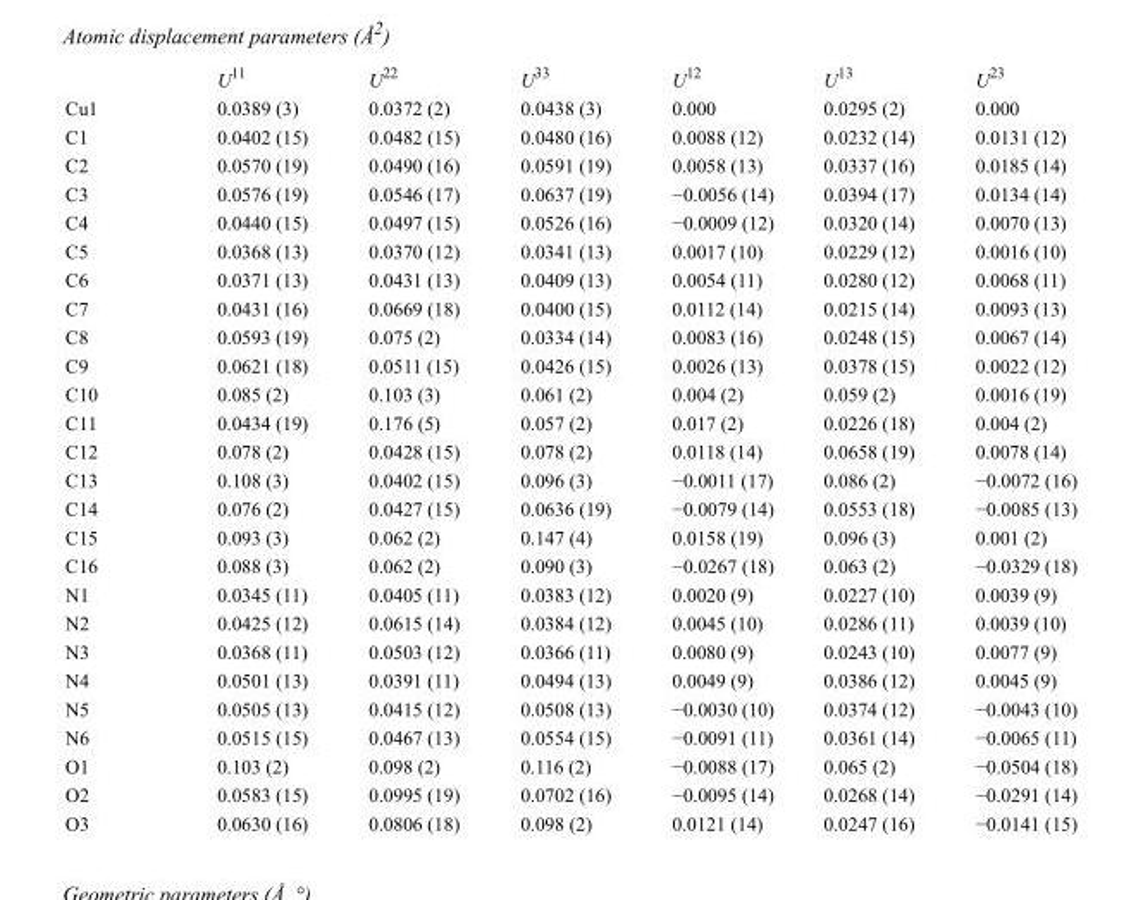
<table><thead><tr><td></td><td>U<sup>11</sup></td><td>U<sup>22</sup></td><td>U<sup>33</sup></td><td>U<sup>12</sup></td><td>U<sup>13</sup></td><td>U<sup>23</sup></td></tr></thead><tbody><tr><td>Cu1</td><td>0.0389 (3)</td><td>0.0372 (2)</td><td>0.0438 (3)</td><td>0.000</td><td>0.0295 (2)</td><td>0.000</td></tr><tr><td>C1</td><td>0.0402 (15)</td><td>0.0482 (15)</td><td>0.0480 (16)</td><td>0.0088 (12)</td><td>0.0232 (14)</td><td>0.0131 (12)</td></tr><tr><td>C2</td><td>0.0570 (19)</td><td>0.0490 (16)</td><td>0.0591 (19)</td><td>0.0058 (13)</td><td>0.0337 (16)</td><td>0.0185 (14)</td></tr><tr><td>C3</td><td>0.0576 (19)</td><td>0.0546 (17)</td><td>0.0637 (19)</td><td>−0.0056 (14)</td><td>0.0394 (17)</td><td>0.0134 (14)</td></tr><tr><td>C4</td><td>0.0440 (15)</td><td>0.0497 (15)</td><td>0.0526 (16)</td><td>−0.0009 (12)</td><td>0.0320 (14)</td><td>0.0070 (13)</td></tr><tr><td>C5</td><td>0.0368 (13)</td><td>0.0370 (12)</td><td>0.0341 (13)</td><td>0.0017 (10)</td><td>0.0229 (12)</td><td>0.0016 (10)</td></tr><tr><td>C6</td><td>0.0371 (13)</td><td>0.0431 (13)</td><td>0.0409 (13)</td><td>0.0054 (11)</td><td>0.0280 (12)</td><td>0.0068 (11)</td></tr><tr><td>C7</td><td>0.0431 (16)</td><td>0.0669 (18)</td><td>0.0400 (15)</td><td>0.0112 (14)</td><td>0.0215 (14)</td><td>0.0093 (13)</td></tr><tr><td>C8</td><td>0.0593 (19)</td><td>0.075 (2)</td><td>0.0334 (14)</td><td>0.0083 (16)</td><td>0.0248 (15)</td><td>0.0067 (14)</td></tr><tr><td>C9</td><td>0.0621 (18)</td><td>0.0511 (15)</td><td>0.0426 (15)</td><td>0.0026 (13)</td><td>0.0378 (15)</td><td>0.0022 (12)</td></tr><tr><td>C10</td><td>0.085 (2)</td><td>0.103 (3)</td><td>0.061 (2)</td><td>0.004 (2)</td><td>0.059 (2)</td><td>0.0016 (19)</td></tr><tr><td>C11</td><td>0.0434 (19)</td><td>0.176 (5)</td><td>0.057 (2)</td><td>0.017 (2)</td><td>0.0226 (18)</td><td>0.004 (2)</td></tr><tr><td>C12</td><td>0.078 (2)</td><td>0.0428 (15)</td><td>0.078 (2)</td><td>0.0118 (14)</td><td>0.0658 (19)</td><td>0.0078 (14)</td></tr><tr><td>C13</td><td>0.108 (3)</td><td>0.0402 (15)</td><td>0.096 (3)</td><td>−0.0011 (17)</td><td>0.086 (2)</td><td>−0.0072 (16)</td></tr><tr><td>C14</td><td>0.076 (2)</td><td>0.0427 (15)</td><td>0.0636 (19)</td><td>−0.0079 (14)</td><td>0.0553 (18)</td><td>−0.0085 (13)</td></tr><tr><td>C15</td><td>0.093 (3)</td><td>0.062 (2)</td><td>0.147 (4)</td><td>0.0158 (19)</td><td>0.096 (3)</td><td>0.001 (2)</td></tr><tr><td>C16</td><td>0.088 (3)</td><td>0.062 (2)</td><td>0.090 (3)</td><td>−0.0267 (18)</td><td>0.063 (2)</td><td>−0.0329 (18)</td></tr><tr><td>N1</td><td>0.0345 (11)</td><td>0.0405 (11)</td><td>0.0383 (12)</td><td>0.0020 (9)</td><td>0.0227 (10)</td><td>0.0039 (9)</td></tr><tr><td>N2</td><td>0.0425 (12)</td><td>0.0615 (14)</td><td>0.0384 (12)</td><td>0.0045 (10)</td><td>0.0286 (11)</td><td>0.0039 (10)</td></tr><tr><td>N3</td><td>0.0368 (11)</td><td>0.0503 (12)</td><td>0.0366 (11)</td><td>0.0080 (9)</td><td>0.0243 (10)</td><td>0.0077 (9)</td></tr><tr><td>N4</td><td>0.0501 (13)</td><td>0.0391 (11)</td><td>0.0494 (13)</td><td>0.0049 (9)</td><td>0.0386 (12)</td><td>0.0045 (9)</td></tr><tr><td>N5</td><td>0.0505 (13)</td><td>0.0415 (12)</td><td>0.0508 (13)</td><td>−0.0030 (10)</td><td>0.0374 (12)</td><td>−0.0043 (10)</td></tr><tr><td>N6</td><td>0.0515 (15)</td><td>0.0467 (13)</td><td>0.0554 (15)</td><td>−0.0091 (11)</td><td>0.0361 (14)</td><td>−0.0065 (11)</td></tr><tr><td>O1</td><td>0.103 (2)</td><td>0.098 (2)</td><td>0.116 (2)</td><td>−0.0088 (17)</td><td>0.065 (2)</td><td>−0.0504 (18)</td></tr><tr><td>O2</td><td>0.0583 (15)</td><td>0.0995 (19)</td><td>0.0702 (16)</td><td>−0.0095 (14)</td><td>0.0268 (14)</td><td>−0.0291 (14)</td></tr><tr><td>O3</td><td>0.0630 (16)</td><td>0.0806 (18)</td><td>0.098 (2)</td><td>0.0121 (14)</td><td>0.0247 (16)</td><td>−0.0141 (15)</td></tr></tbody></table>